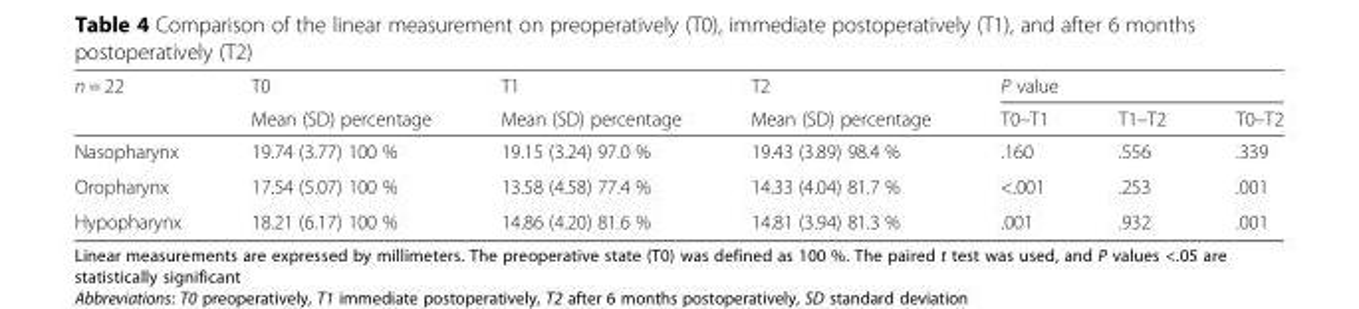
<table><thead><tr><td rowspan="2">n = 22</td><td rowspan="2">T0 Mean (SD) percentage</td><td rowspan="2">T1 Mean (SD) percentage</td><td rowspan="2">T2 Mean (SD) percentage</td><td colspan="3">P value</td></tr><tr><td>T0–T1</td><td>T1–T2</td><td>T0–T2</td></tr></thead><tbody><tr><td>Nasopharynx</td><td>19.74 (3.77) 100 %</td><td>19.15 (3.24) 97.0 %</td><td>19.43 (3.89) 98.4 %</td><td>.160</td><td>.556</td><td>.339</td></tr><tr><td>Oropharynx</td><td>17.54 (5.07) 100 %</td><td>13.58 (4.58) 77.4 %</td><td>14.33 (4.04) 81.7 %</td><td>&lt;.001</td><td>.253</td><td>.001</td></tr><tr><td>Hypopharynx</td><td>18.21 (6.17) 100 %</td><td>14.86 (4.20) 81.6 %</td><td>14.81 (3.94) 81.3 %</td><td>.001</td><td>.932</td><td>.001</td></tr></tbody></table>